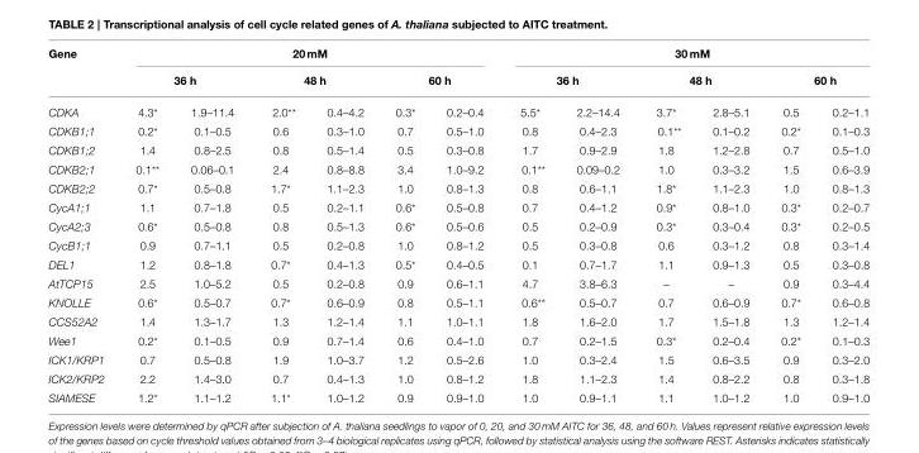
<table><thead><tr><td rowspan="3">Gene CDKA</td><td colspan="6">20 mM</td><td colspan="6">30 mM</td></tr><tr><td colspan="2">36 h</td><td colspan="2">48 h</td><td colspan="2">60 h</td><td colspan="2">36 h</td><td colspan="2">48 h</td><td colspan="2">60 h</td></tr><tr><td>4.3*</td><td>1.9–11.4</td><td>2.0**</td><td>0.4–4.2</td><td>0.3*</td><td>0.2–0.4</td><td>5.5*</td><td>2.2–14.4</td><td>3.7*</td><td>2.8–5.1</td><td>0.5</td><td>0.2–1.1</td></tr></thead><tbody><tr><td>CDKB1;1</td><td>0.2*</td><td>0.1–0.5</td><td>0.6</td><td>0.3–1.0</td><td>0.7</td><td>0.5–1.0</td><td>0.8</td><td>0.4–2.3</td><td>0.1**</td><td>0.1–0.2</td><td>0.2*</td><td>0.1–0.3</td></tr><tr><td>CDKB1;2</td><td>1.4</td><td>0.8–2.5</td><td>0.8</td><td>0.5–1.4</td><td>0.5</td><td>0.3–0.8</td><td>1.7</td><td>0.9–2.9</td><td>1.8</td><td>1.2–2.8</td><td>0.7</td><td>0.5–1.0</td></tr><tr><td>CDKB2;1</td><td>0.1**</td><td>0.06–0.1</td><td>2.4</td><td>0.8–8.8</td><td>3.4</td><td>1.0–9.2</td><td>0.1**</td><td>0.09–0.2</td><td>1.0</td><td>0.3–3.2</td><td>1.5</td><td>0.6–3.9</td></tr><tr><td>CDKB2;2</td><td>0.7*</td><td>0.5–0.8</td><td>1.7*</td><td>1.1–2.3</td><td>1.0</td><td>0.8–1.3</td><td>0.8</td><td>0.6–1.1</td><td>1.8*</td><td>1.1–2.3</td><td>1.0</td><td>0.8–1.3</td></tr><tr><td>CycA1;1</td><td>1.1</td><td>0.7–1.8</td><td>0.5</td><td>0.2–1.1</td><td>0.6*</td><td>0.5–0.8</td><td>0.7</td><td>0.4–1.2</td><td>0.9*</td><td>0.8–1.0</td><td>0.3*</td><td>0.2–0.7</td></tr><tr><td>CycA2;3</td><td>0.6*</td><td>0.5–0.8</td><td>0.8</td><td>0.5–1.3</td><td>0.6*</td><td>0.5–0.6</td><td>0.5</td><td>0.2–0.9</td><td>0.3*</td><td>0.3–0.4</td><td>0.3*</td><td>0.2–0.5</td></tr><tr><td>CycB1;1</td><td>0.9</td><td>0.7–1.1</td><td>0.5</td><td>0.2–0.8</td><td>1.0</td><td>0.8–1.2</td><td>0.5</td><td>0.3–0.8</td><td>0.6</td><td>0.3–1.2</td><td>0.8</td><td>0.3–1.4</td></tr><tr><td>DEL1</td><td>1.2</td><td>0.8–1.8</td><td>0.7*</td><td>0.4–1.3</td><td>0.5*</td><td>0.4–0.5</td><td>0.1</td><td>0.7–1.7</td><td>1.1</td><td>0.9–1.3</td><td>0.5</td><td>0.3–0.8</td></tr><tr><td>AtTCP15</td><td>2.5</td><td>1.0–5.2</td><td>0.5</td><td>0.2–0.8</td><td>0.9</td><td>0.6–1.1</td><td>4.7</td><td>3.8–6.3</td><td>–</td><td>–</td><td>0.9</td><td>0.3–4.4</td></tr><tr><td>KNOLLE</td><td>0.6*</td><td>0.5–0.7</td><td>0.7*</td><td>0.6–0.9</td><td>0.8</td><td>0.5–1.1</td><td>0.6**</td><td>0.5–0.7</td><td>0.7</td><td>0.6–0.9</td><td>0.7*</td><td>0.6–0.8</td></tr><tr><td>CCS52A2</td><td>1.4</td><td>1.3–1.7</td><td>1.3</td><td>1.2–1.4</td><td>1.1</td><td>1.0–1.1</td><td>1.8</td><td>1.6–2.0</td><td>1.7</td><td>1.5–1.8</td><td>1.3</td><td>1.2–1.4</td></tr><tr><td>Wee1</td><td>0.2*</td><td>0.1–0.5</td><td>0.9</td><td>0.7–1.4</td><td>0.6</td><td>0.4–1.0</td><td>0.7</td><td>0.2–1.5</td><td>0.3*</td><td>0.2–0.4</td><td>0.2*</td><td>0.1–0.3</td></tr><tr><td>ICK1/KRP1</td><td>0.7</td><td>0.5–0.8</td><td>1.9</td><td>1.0–3.7</td><td>1.2</td><td>0.5–2.6</td><td>1.0</td><td>0.3–2.4</td><td>1.5</td><td>0.6–3.5</td><td>0.9</td><td>0.3–2.0</td></tr><tr><td>ICK2/KRP2</td><td>2.2</td><td>1.4–3.0</td><td>0.7</td><td>0.4–1.3</td><td>1.0</td><td>0.8–1.2</td><td>1.8</td><td>1.1–2.3</td><td>1.4</td><td>0.8–2.2</td><td>0.8</td><td>0.3–1.8</td></tr><tr><td>SIAMESE</td><td>1.2*</td><td>1.1–1.2</td><td>1.1*</td><td>1.0–1.2</td><td>0.9</td><td>0.9–1.0</td><td>1.0</td><td>0.9–1.1</td><td>1.1</td><td>1.0–1.2</td><td>1.0</td><td>0.9–1.0</td></tr></tbody></table>